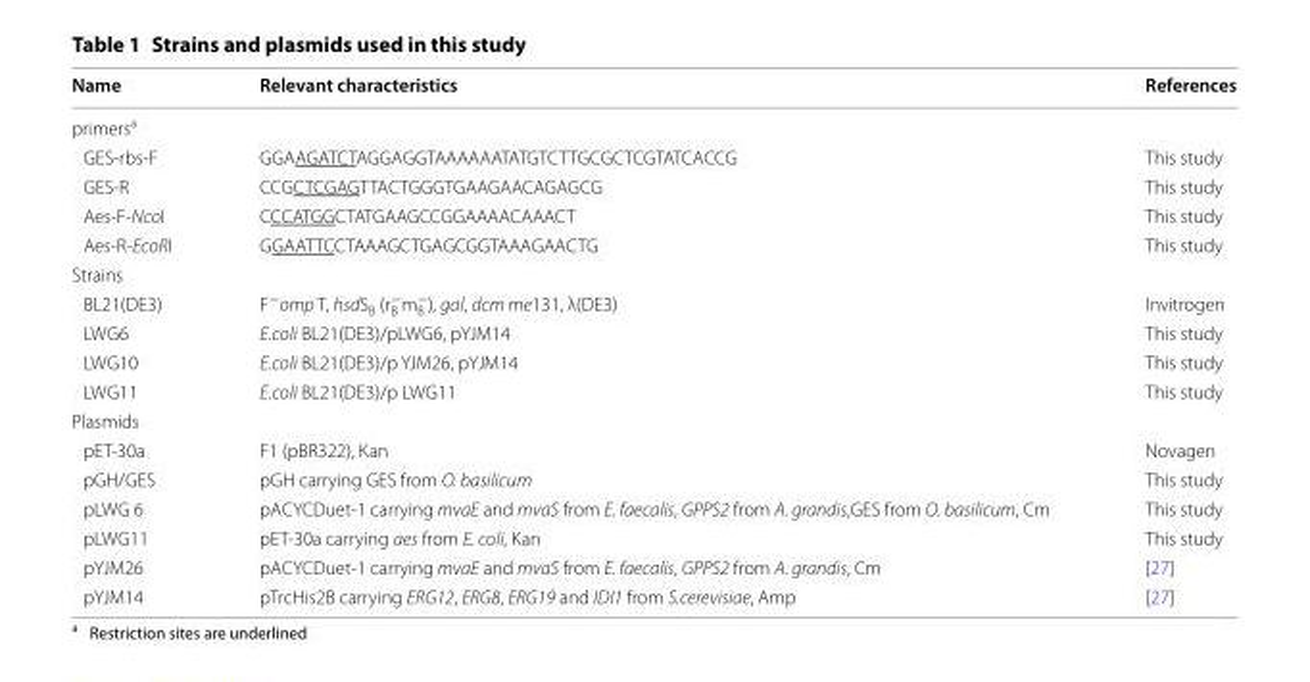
<table><thead><tr><td>Name</td><td>Relevant characteristics</td><td>References</td></tr></thead><tbody><tr><td colspan="3">primers<sup>a</sup></td></tr><tr><td>GES-rbs-F</td><td>GGAAGATCTAGGAGGTAAAAAATATGTCTTGCGCTCGTATCACCG</td><td>This study</td></tr><tr><td>GES-R</td><td>CCGCTCGAGTTACTGGGTGAAGAACAGAGCG</td><td>This study</td></tr><tr><td>Aes-F-NcoI</td><td>CCCATGGCTATGAAGCCGGAAAACAAACT</td><td>This study</td></tr><tr><td>Aes-R-EcoRI</td><td>GGAATTCCTAAAGCTGAGCGGTAAAGAACTG</td><td>This study</td></tr><tr><td colspan="3">Strains</td></tr><tr><td>BL21(DE3)</td><td>F<sup>−</sup>omp T, hsdS<sub>B</sub> (r<sub>B</sub> <sup>−</sup>m<sub>B</sub> <sup>−</sup>), gal, dcm me131, λ(DE3)</td><td>Invitrogen</td></tr><tr><td>LWG6</td><td>E.coli BL21(DE3)/pLWG6, pYJM14</td><td>This study</td></tr><tr><td>LWG10</td><td>E.coli BL21(DE3)/p YJM26, pYJM14</td><td>This study</td></tr><tr><td>LWG11</td><td>E.coli BL21(DE3)/p LWG11</td><td>This study</td></tr><tr><td colspan="3">Plasmids</td></tr><tr><td>pET-30a</td><td>F1 (pBR322), Kan</td><td>Novagen</td></tr><tr><td>pGH/GES</td><td>pGH carrying GES from O. basilicum</td><td>This study</td></tr><tr><td>pLWG 6</td><td>pACYCDuet-1 carrying mvaE and mvaS from E. faecalis, GPPS2 from A. grandis,GES from O. basilicum, Cm</td><td>This study</td></tr><tr><td>pLWG11</td><td>pET-30a carrying aes from E. coli, Kan</td><td>This study</td></tr><tr><td>pYJM26</td><td>pACYCDuet-1 carrying mvaE and mvaS from E. faecalis, GPPS2 from A. grandis, Cm</td><td>[27]</td></tr><tr><td>pYJM14</td><td>pTrcHis2B carrying ERG12, ERG8, ERG19 and IDI1 from S.cerevisiae, Amp</td><td>[27]</td></tr></tbody></table>